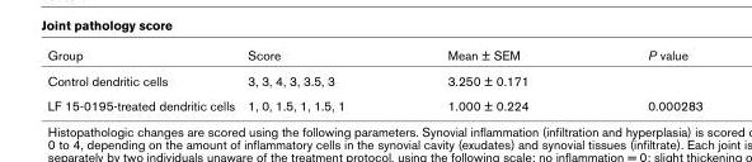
<table><thead><tr><td>Group</td><td>Score</td><td>Mean ± SEM</td><td>P value</td></tr></thead><tbody><tr><td>Control dendritic cells</td><td>3, 3, 4, 3, 3.5, 3</td><td>3.250 ± 0.171</td><td></td></tr><tr><td>LF 15-0195-treated dendritic cells</td><td>1, 0, 1.5, 1, 1.5, 1</td><td>1.000 ± 0.224</td><td>0.000283</td></tr></tbody></table>